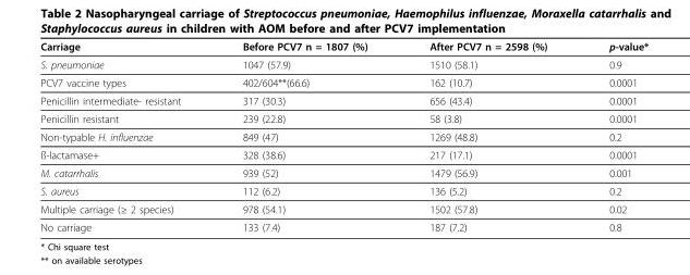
<table><thead><tr><td>Carriage</td><td>Before PCV7 n = 1807 (%)</td><td>After PCV7 n = 2598 (%)</td><td>p-value*</td></tr></thead><tbody><tr><td>S. pneumoniae</td><td>1047 (57.9)</td><td>1510 (58.1)</td><td>0.9</td></tr><tr><td>PCV7 vaccine types</td><td>402/604**(66.6)</td><td>162 (10.7)</td><td>0.0001</td></tr><tr><td>Penicillin intermediate- resistant</td><td>317 (30.3)</td><td>656 (43.4)</td><td>0.0001</td></tr><tr><td>Penicillin resistant</td><td>239 (22.8)</td><td>58 (3.8)</td><td>0.0001</td></tr><tr><td>Non-typable H. influenzae</td><td>849 (47)</td><td>1269 (48.8)</td><td>0.2</td></tr><tr><td>ß-lactamase+</td><td>328 (38.6)</td><td>217 (17.1)</td><td>0.0001</td></tr><tr><td>M. catarrhalis</td><td>939 (52)</td><td>1479 (56.9)</td><td>0.001</td></tr><tr><td>S. aureus</td><td>112 (6.2)</td><td>136 (5.2)</td><td>0.2</td></tr><tr><td>Multiple carriage (≥ 2 species)</td><td>978 (54.1)</td><td>1502 (57.8)</td><td>0.02</td></tr><tr><td>No carriage</td><td>133 (7.4)</td><td>187 (7.2)</td><td>0.8</td></tr></tbody></table>